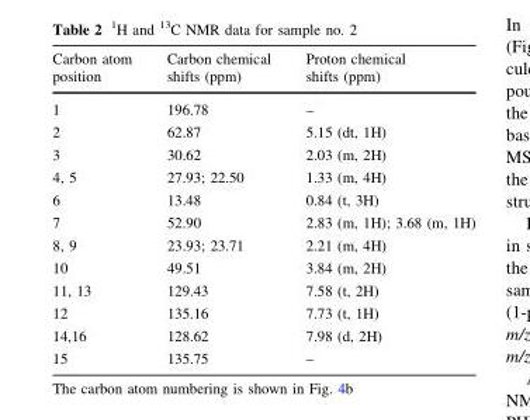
<table><thead><tr><td>Carbon atom position</td><td>Carbon chemical shifts (ppm)</td><td>Proton chemical shifts (ppm)</td></tr></thead><tbody><tr><td>1</td><td>196.78</td><td>–</td></tr><tr><td>2</td><td>62.87</td><td>5.15 (dt, 1H)</td></tr><tr><td>3</td><td>30.62</td><td>2.03 (m, 2H)</td></tr><tr><td>4, 5</td><td>27.93; 22.50</td><td>1.33 (m, 4H)</td></tr><tr><td>6</td><td>13.48</td><td>0.84 (t, 3H)</td></tr><tr><td>7</td><td>52.90</td><td>2.83 (m, 1H); 3.68 (m, 1H)</td></tr><tr><td>8, 9</td><td>23.93; 23.71</td><td>2.21 (m, 4H)</td></tr><tr><td>10</td><td>49.51</td><td>3.84 (m, 2H)</td></tr><tr><td>11, 13</td><td>129.43</td><td>7.58 (t, 2H)</td></tr><tr><td>12</td><td>135.16</td><td>7.73 (t, 1H)</td></tr><tr><td>14,16</td><td>128.62</td><td>7.98 (d, 2H)</td></tr><tr><td>15</td><td>135.75</td><td>–</td></tr></tbody></table>